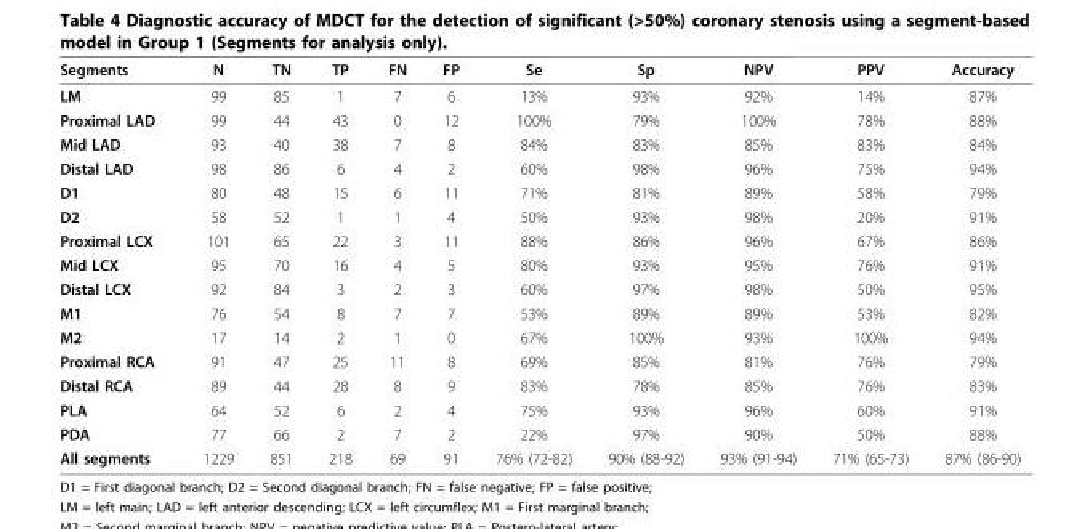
<table><thead><tr><td>Segments</td><td>N</td><td>TN</td><td>TP</td><td>FN</td><td>FP</td><td>Se</td><td>Sp</td><td>NPV</td><td>PPV</td><td>Accuracy</td></tr></thead><tbody><tr><td>LM</td><td>99</td><td>85</td><td>1</td><td>7</td><td>6</td><td>13%</td><td>93%</td><td>92%</td><td>14%</td><td>87%</td></tr><tr><td>Proximal LAD</td><td>99</td><td>44</td><td>43</td><td>0</td><td>12</td><td>100%</td><td>79%</td><td>100%</td><td>78%</td><td>88%</td></tr><tr><td>Mid LAD</td><td>93</td><td>40</td><td>38</td><td>7</td><td>8</td><td>84%</td><td>83%</td><td>85%</td><td>83%</td><td>84%</td></tr><tr><td>Distal LAD</td><td>98</td><td>86</td><td>6</td><td>4</td><td>2</td><td>60%</td><td>98%</td><td>96%</td><td>75%</td><td>94%</td></tr><tr><td>D1</td><td>80</td><td>48</td><td>15</td><td>6</td><td>11</td><td>71%</td><td>81%</td><td>89%</td><td>58%</td><td>79%</td></tr><tr><td>D2</td><td>58</td><td>52</td><td>1</td><td>1</td><td>4</td><td>50%</td><td>93%</td><td>98%</td><td>20%</td><td>91%</td></tr><tr><td>Proximal LCX</td><td>101</td><td>65</td><td>22</td><td>3</td><td>11</td><td>88%</td><td>86%</td><td>96%</td><td>67%</td><td>86%</td></tr><tr><td>Mid LCX</td><td>95</td><td>70</td><td>16</td><td>4</td><td>5</td><td>80%</td><td>93%</td><td>95%</td><td>76%</td><td>91%</td></tr><tr><td>Distal LCX</td><td>92</td><td>84</td><td>3</td><td>2</td><td>3</td><td>60%</td><td>97%</td><td>98%</td><td>50%</td><td>95%</td></tr><tr><td>M1</td><td>76</td><td>54</td><td>8</td><td>7</td><td>7</td><td>53%</td><td>89%</td><td>89%</td><td>53%</td><td>82%</td></tr><tr><td>M2</td><td>17</td><td>14</td><td>2</td><td>1</td><td>0</td><td>67%</td><td>100%</td><td>93%</td><td>100%</td><td>94%</td></tr><tr><td>Proximal RCA</td><td>91</td><td>47</td><td>25</td><td>11</td><td>8</td><td>69%</td><td>85%</td><td>81%</td><td>76%</td><td>79%</td></tr><tr><td>Distal RCA</td><td>89</td><td>44</td><td>28</td><td>8</td><td>9</td><td>83%</td><td>78%</td><td>85%</td><td>76%</td><td>83%</td></tr><tr><td>PLA</td><td>64</td><td>52</td><td>6</td><td>2</td><td>4</td><td>75%</td><td>93%</td><td>96%</td><td>60%</td><td>91%</td></tr><tr><td>PDA</td><td>77</td><td>66</td><td>2</td><td>7</td><td>2</td><td>22%</td><td>97%</td><td>90%</td><td>50%</td><td>88%</td></tr><tr><td>All segments</td><td>1229</td><td>851</td><td>218</td><td>69</td><td>91</td><td>76% (72-82)</td><td>90% (88-92)</td><td>93% (91-94)</td><td>71% (65-73)</td><td>87% (86-90)</td></tr></tbody></table>